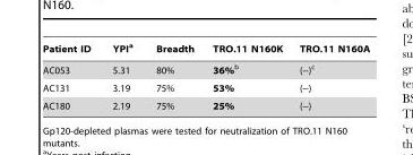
<table><thead><tr><td>Patient ID</td><td>YPI<sup>a</sup></td><td>Breadth</td><td>TRO.11 N160K</td><td>TRO.11 N160A</td></tr></thead><tbody><tr><td>AC053</td><td>5.31</td><td>80%</td><td>36%b</td><td>(--)<sup>c</sup></td></tr><tr><td>AC131</td><td>3.19</td><td>75%</td><td>53%</td><td>(--)</td></tr><tr><td>AC180</td><td>2.19</td><td>75%</td><td>25%</td><td>(--)</td></tr></tbody></table>